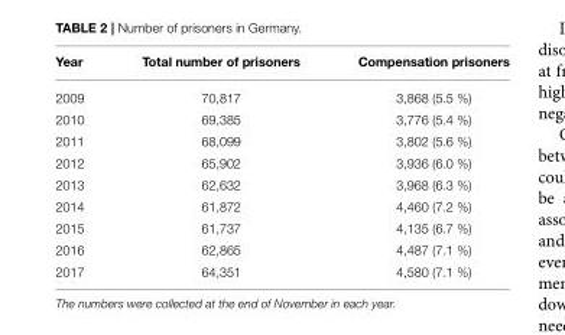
<table><thead><tr><td>Year</td><td>Total number of prisoners</td><td>Compensation prisoners</td></tr></thead><tbody><tr><td>2009</td><td>70,817</td><td>3,868 (5.5 %)</td></tr><tr><td>2010</td><td>69,385</td><td>3,776 (5.4 %)</td></tr><tr><td>2011</td><td>68,099</td><td>3,802 (5.6 %)</td></tr><tr><td>2012</td><td>65,902</td><td>3,936 (6.0 %)</td></tr><tr><td>2013</td><td>62,632</td><td>3,968 (6.3 %)</td></tr><tr><td>2014</td><td>61,872</td><td>4,460 (7.2 %)</td></tr><tr><td>2015</td><td>61,737</td><td>4,135 (6.7 %)</td></tr><tr><td>2016</td><td>62,865</td><td>4,487 (7.1 %)</td></tr><tr><td>2017</td><td>64,351</td><td>4,580 (7.1 %)</td></tr></tbody></table>